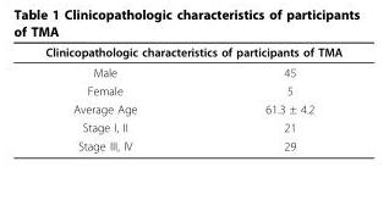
<table><thead><tr><td colspan="2">Clinicopathologic characteristics of participants of TMA</td></tr><tr><td>Male</td><td>45</td></tr></thead><tbody><tr><td>Female</td><td>5</td></tr><tr><td>Average Age</td><td>61.3 ± 4.2</td></tr><tr><td>Stage I, II</td><td>21</td></tr><tr><td>Stage III, IV</td><td>29</td></tr></tbody></table>